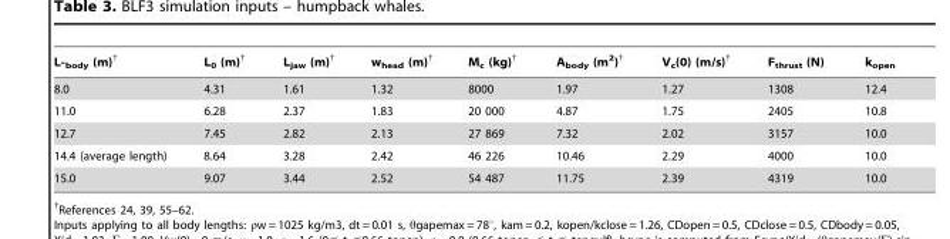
<table><thead><tr><td>L-body (m){</td><td>L<sub>0</sub> (m)†</td><td>L<sub>jaw</sub> (m)†</td><td>w<sub>head</sub> (m)†</td><td>M<sub>c</sub> (kg)†</td><td>A<sub>body</sub> (m<sup>2</sup>)†</td><td>V<sub>c</sub>(0) (m/s)†</td><td>F<sub>thrust</sub> (N)</td><td>k<sub>open</sub></td></tr></thead><tbody><tr><td>8.0</td><td>4.31</td><td>1.61</td><td>1.32</td><td>8000</td><td>1.97</td><td>1.27</td><td>1308</td><td>12.4</td></tr><tr><td>11.0</td><td>6.28</td><td>2.37</td><td>1.83</td><td>20 000</td><td>4.87</td><td>1.75</td><td>2405</td><td>10.8</td></tr><tr><td>12.7</td><td>7.45</td><td>2.82</td><td>2.13</td><td>27 869</td><td>7.32</td><td>2.02</td><td>3157</td><td>10.0</td></tr><tr><td>14.4 (average length)</td><td>8.64</td><td>3.28</td><td>2.42</td><td>46 226</td><td>10.46</td><td>2.29</td><td>4000</td><td>10.0</td></tr><tr><td>15.0</td><td>9.07</td><td>3.44</td><td>2.52</td><td>54 487</td><td>11.75</td><td>2.39</td><td>4319</td><td>10.0</td></tr></tbody></table>